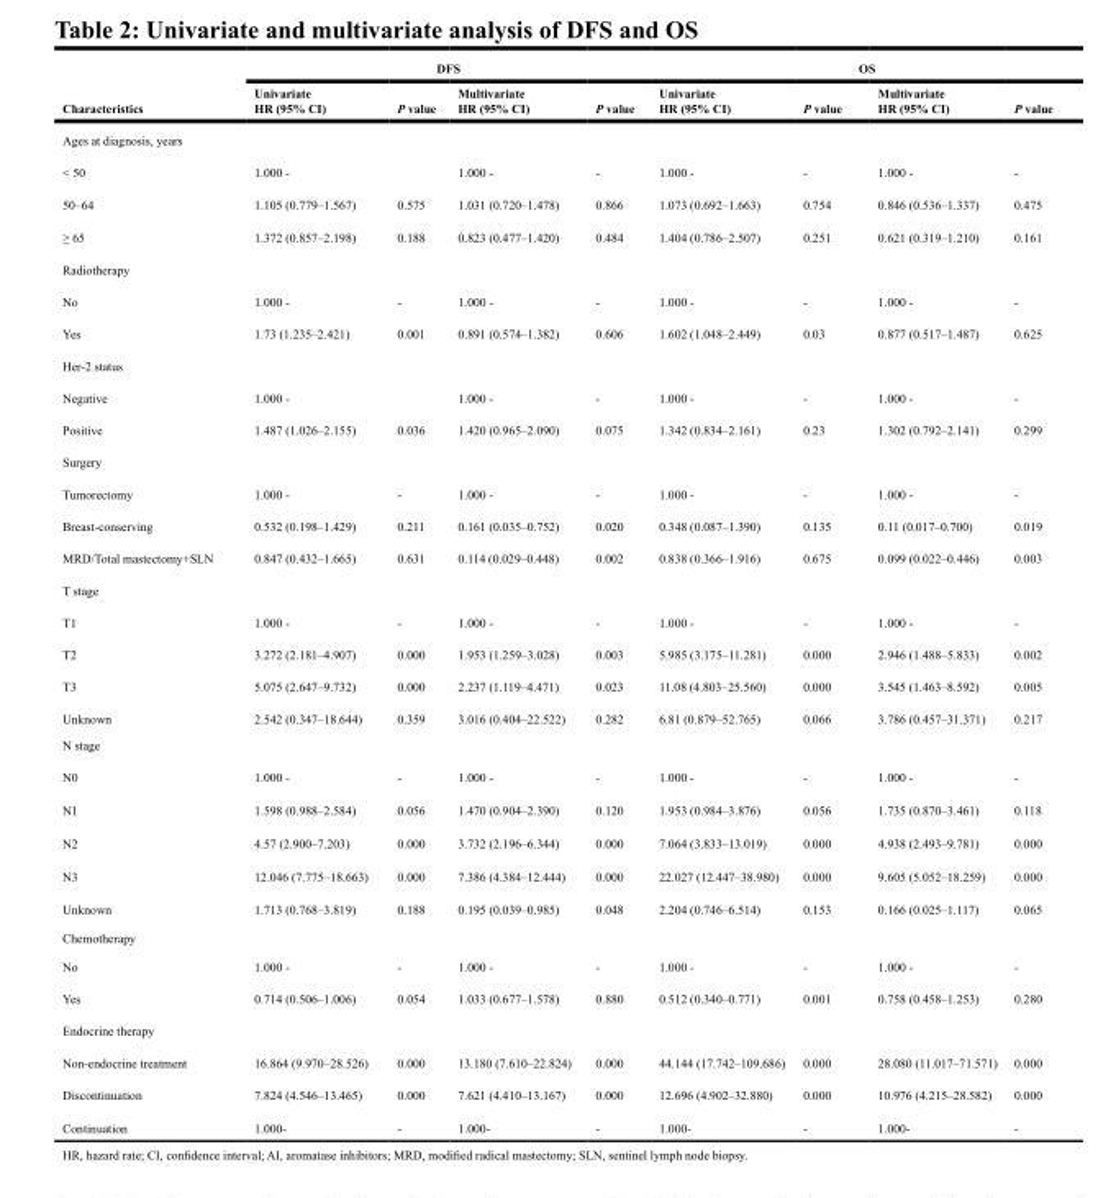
<table><thead><tr><td rowspan="2">Characteristics</td><td colspan="4">DFS</td><td colspan="4">OS</td></tr><tr><td>Univariate HR (95% CI)</td><td>P value</td><td>Multivariate HR (95% CI)</td><td>P value</td><td>Univariate HR (95% CI)</td><td>P value</td><td>Multivariate HR (95% CI)</td><td>P value</td></tr></thead><tbody><tr><td colspan="9">Ages at diagnosis, years</td></tr><tr><td>&lt; 50</td><td>1.000 -</td><td></td><td>1.000 -</td><td>-</td><td>1.000 -</td><td>-</td><td>1.000 -</td><td>-</td></tr><tr><td>50–64</td><td>1.105 (0.779–1.567)</td><td>0.575</td><td>1.031 (0.720–1.478)</td><td>0.866</td><td>1.073 (0.692–1.663)</td><td>0.754</td><td>0.846 (0.536–1.337)</td><td>0.475</td></tr><tr><td>≥ 65</td><td>1.372 (0.857–2.198)</td><td>0.188</td><td>0.823 (0.477–1.420)</td><td>0.484</td><td>1.404 (0.786–2.507)</td><td>0.251</td><td>0.621 (0.319–1.210)</td><td>0.161</td></tr><tr><td colspan="9">Radiotherapy</td></tr><tr><td>No</td><td>1.000 -</td><td>-</td><td>1.000 -</td><td>-</td><td>1.000 -</td><td>-</td><td>1.000 -</td><td>-</td></tr><tr><td>Yes</td><td>1.73 (1.235–2.421)</td><td>0.001</td><td>0.891 (0.574–1.382)</td><td>0.606</td><td>1.602 (1.048–2.449)</td><td>0.03</td><td>0.877 (0.517–1.487)</td><td>0.625</td></tr><tr><td colspan="9">Her-2 status</td></tr><tr><td>Negative</td><td>1.000 -</td><td></td><td>1.000 -</td><td>-</td><td>1.000 -</td><td>-</td><td>1.000 -</td><td>-</td></tr><tr><td>Positive</td><td>1.487 (1.026–2.155)</td><td>0.036</td><td>1.420 (0.965–2.090)</td><td>0.075</td><td>1.342 (0.834–2.161)</td><td>0.23</td><td>1.302 (0.792–2.141)</td><td>0.299</td></tr><tr><td colspan="9">Surgery</td></tr><tr><td>Tumorectomy</td><td>1.000 -</td><td>-</td><td>1.000 -</td><td>-</td><td>1.000 -</td><td>-</td><td>1.000 -</td><td>-</td></tr><tr><td>Breast-conserving</td><td>0.532 (0.198–1.429)</td><td>0.211</td><td>0.161 (0.035–0.752)</td><td>0.020</td><td>0.348 (0.087–1.390)</td><td>0.135</td><td>0.11 (0.017–0.700)</td><td>0.019</td></tr><tr><td>MRD/Total mastectomy+SLN</td><td>0.847 (0.432–1.665)</td><td>0.631</td><td>0.114 (0.029–0.448)</td><td>0.002</td><td>0.838 (0.366–1.916)</td><td>0.675</td><td>0.099 (0.022–0.446)</td><td>0.003</td></tr><tr><td colspan="9">T stage</td></tr><tr><td>T1</td><td>1.000 -</td><td>-</td><td>1.000 -</td><td>-</td><td>1.000 -</td><td>-</td><td>1.000 -</td><td>-</td></tr><tr><td>T2</td><td>3.272 (2.181–4.907)</td><td>0.000</td><td>1.953 (1.259–3.028)</td><td>0.003</td><td>5.985 (3.175–11.281)</td><td>0.000</td><td>2.946 (1.488–5.833)</td><td>0.002</td></tr><tr><td>T3</td><td>5.075 (2.647–9.732)</td><td>0.000</td><td>2.237 (1.119–4.471)</td><td>0.023</td><td>11.08 (4.803–25.560)</td><td>0.000</td><td>3.545 (1.463–8.592)</td><td>0.005</td></tr><tr><td>Unknown</td><td>2.542 (0.347–18.644)</td><td>0.359</td><td>3.016 (0.404–22.522)</td><td>0.282</td><td>6.81 (0.879–52.765)</td><td>0.066</td><td>3.786 (0.457–31.371)</td><td>0.217</td></tr><tr><td colspan="9">N stage</td></tr><tr><td>N0</td><td>1.000 -</td><td>-</td><td>1.000 -</td><td>-</td><td>1.000 -</td><td>-</td><td>1.000 -</td><td>-</td></tr><tr><td>N1</td><td>1.598 (0.988–2.584)</td><td>0.056</td><td>1.470 (0.904–2.390)</td><td>0.120</td><td>1.953 (0.984–3.876)</td><td>0.056</td><td>1.735 (0.870–3.461)</td><td>0.118</td></tr><tr><td>N2</td><td>4.57 (2.900–7.203)</td><td>0.000</td><td>3.732 (2.196–6.344)</td><td>0.000</td><td>7.064 (3.833–13.019)</td><td>0.000</td><td>4.938 (2.493–9.781)</td><td>0.000</td></tr><tr><td>N3</td><td>12.046 (7.775–18.663)</td><td>0.000</td><td>7.386 (4.384–12.444)</td><td>0.000</td><td>22.027 (12.447–38.980)</td><td>0.000</td><td>9.605 (5.052–18.259)</td><td>0.000</td></tr><tr><td>Unknown</td><td>1.713 (0.768–3.819)</td><td>0.188</td><td>0.195 (0.039–0.985)</td><td>0.048</td><td>2.204 (0.746–6.514)</td><td>0.153</td><td>0.166 (0.025–1.117)</td><td>0.065</td></tr><tr><td colspan="9">Chemotherapy</td></tr><tr><td>No</td><td>1.000 -</td><td>-</td><td>1.000 -</td><td>-</td><td>1.000 -</td><td>-</td><td>1.000 -</td><td>-</td></tr><tr><td>Yes</td><td>0.714 (0.506–1.006)</td><td>0.054</td><td>1.033 (0.677–1.578)</td><td>0.880</td><td>0.512 (0.340–0.771)</td><td>0.001</td><td>0.758 (0.458–1.253)</td><td>0.280</td></tr><tr><td colspan="9">Endocrine therapy</td></tr><tr><td>Non-endocrine treatment</td><td>16.864 (9.970–28.526)</td><td>0.000</td><td>13.180 (7.610–22.824)</td><td>0.000</td><td>44.144 (17.742–109.686)</td><td>0.000</td><td>28.080 (11.017–71.571)</td><td>0.000</td></tr><tr><td>Discontinuation</td><td>7.824 (4.546–13.465)</td><td>0.000</td><td>7.621 (4.410–13.167)</td><td>0.000</td><td>12.696 (4.902–32.880)</td><td>0.000</td><td>10.976 (4.215–28.582)</td><td>0.000</td></tr><tr><td>Continuation</td><td>1.000-</td><td>-</td><td>1.000-</td><td>-</td><td>1.000-</td><td>-</td><td>1.000-</td><td>-</td></tr></tbody></table>